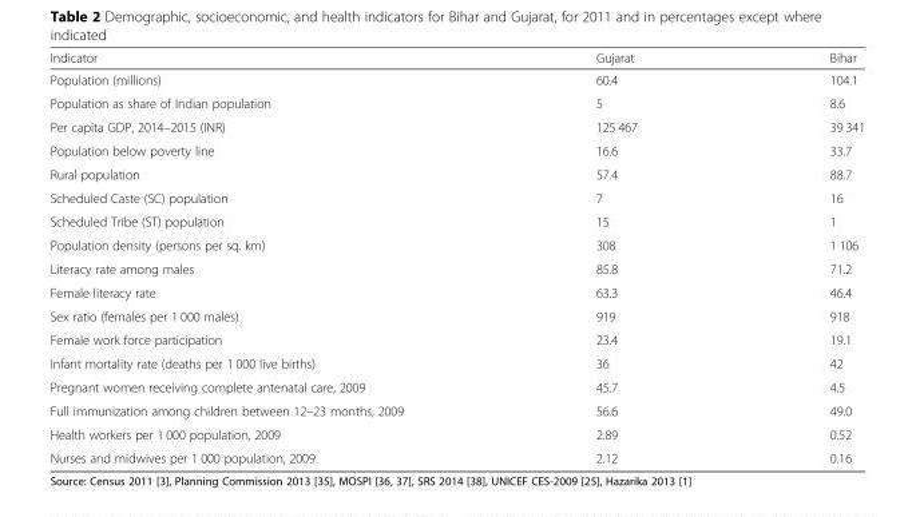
<table><thead><tr><td>Indicator</td><td>Gujarat</td><td>Bihar</td></tr></thead><tbody><tr><td>Population (millions)</td><td>60.4</td><td>104.1</td></tr><tr><td>Population as share of Indian population</td><td>5</td><td>8.6</td></tr><tr><td>Per capita GDP, 2014–2015 (INR)</td><td>125 467</td><td>39 341</td></tr><tr><td>Population below poverty line</td><td>16.6</td><td>33.7</td></tr><tr><td>Rural population</td><td>57.4</td><td>88.7</td></tr><tr><td>Scheduled Caste (SC) population</td><td>7</td><td>16</td></tr><tr><td>Scheduled Tribe (ST) population</td><td>15</td><td>1</td></tr><tr><td>Population density (persons per sq. km)</td><td>308</td><td>1 106</td></tr><tr><td>Literacy rate among males</td><td>85.8</td><td>71.2</td></tr><tr><td>Female literacy rate</td><td>63.3</td><td>46.4</td></tr><tr><td>Sex ratio (females per 1 000 males)</td><td>919</td><td>918</td></tr><tr><td>Female work force participation</td><td>23.4</td><td>19.1</td></tr><tr><td>Infant mortality rate (deaths per 1 000 live births)</td><td>36</td><td>42</td></tr><tr><td>Pregnant women receiving complete antenatal care, 2009</td><td>45.7</td><td>4.5</td></tr><tr><td>Full immunization among children between 12–23 months, 2009</td><td>56.6</td><td>49.0</td></tr><tr><td>Health workers per 1 000 population, 2009</td><td>2.89</td><td>0.52</td></tr><tr><td>Nurses and midwives per 1 000 population, 2009</td><td>2.12</td><td>0.16</td></tr></tbody></table>